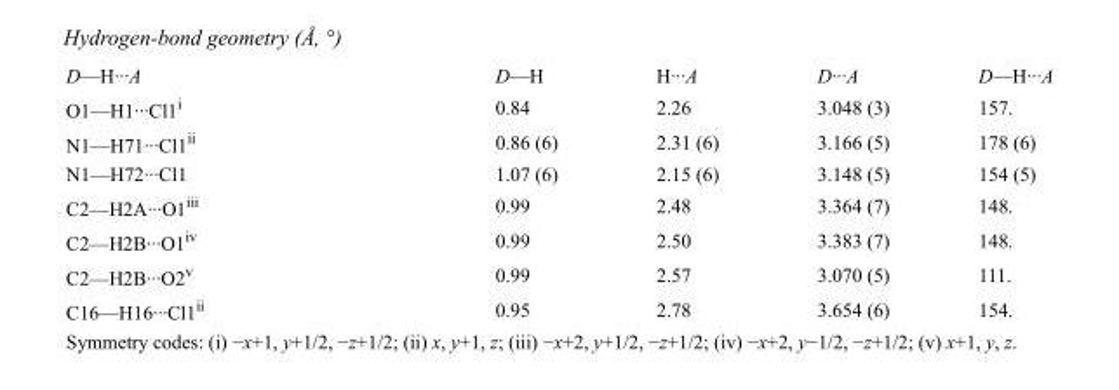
<table><tbody><tr><td>D—H···A</td><td>D—H</td><td>H···A</td><td>D···A</td><td>D—H···A</td></tr><tr><td>O1—H1···Cl1<sup>i</sup></td><td>0.84</td><td>2.26</td><td>3.048 (3)</td><td>157.</td></tr><tr><td>N1—H71···Cl1<sup>ii</sup></td><td>0.86 (6)</td><td>2.31 (6)</td><td>3.166 (5)</td><td>178 (6)</td></tr><tr><td>N1—H72···Cl1</td><td>1.07 (6)</td><td>2.15 (6)</td><td>3.148 (5)</td><td>154 (5)</td></tr><tr><td>C2—H2A···O1<sup>iii</sup></td><td>0.99</td><td>2.48</td><td>3.364 (7)</td><td>148.</td></tr><tr><td>C2—H2B···O1<sup>iv</sup></td><td>0.99</td><td>2.50</td><td>3.383 (7)</td><td>148.</td></tr><tr><td>C2—H2B···O2<sup>v</sup></td><td>0.99</td><td>2.57</td><td>3.070 (5)</td><td>111.</td></tr><tr><td>C16—H16···Cl1<sup>ii</sup></td><td>0.95</td><td>2.78</td><td>3.654 (6)</td><td>154.</td></tr></tbody></table>